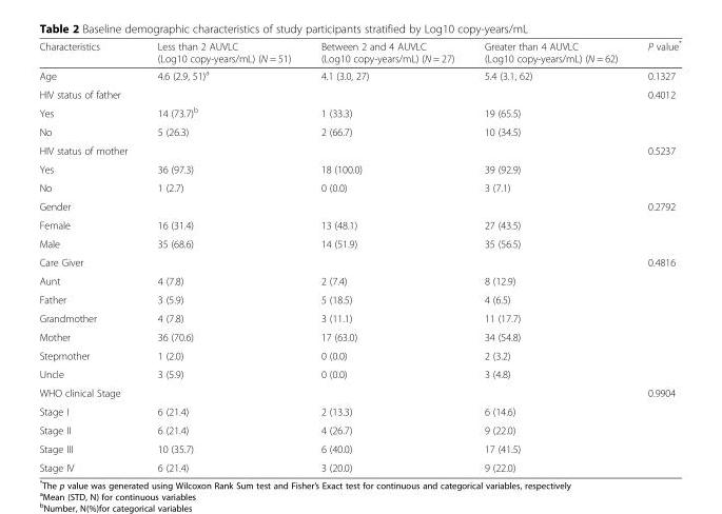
<table><thead><tr><td>Characteristics</td><td>Less than 2 AUVLC (Log10 copy-years/mL) (N = 51)</td><td>Between 2 and 4 AUVLC (Log10 copy-years/mL) (N = 27)</td><td>Greater than 4 AUVLC (Log10 copy-years/mL) (N = 62)</td><td>P value*</td></tr></thead><tbody><tr><td>Age</td><td>4.6 (2.9, 51)<sup>a</sup></td><td>4.1 (3.0, 27)</td><td>5.4 (3.1, 62)</td><td>0.1327</td></tr><tr><td>HIV status of father</td><td></td><td></td><td></td><td>0.4012</td></tr><tr><td>Yes</td><td>14 (73.7)<sup>b</sup></td><td>1 (33.3)</td><td>19 (65.5)</td><td></td></tr><tr><td>No</td><td>5 (26.3)</td><td>2 (66.7)</td><td>10 (34.5)</td><td></td></tr><tr><td>HIV status of mother</td><td></td><td></td><td></td><td>0.5237</td></tr><tr><td>Yes</td><td>36 (97.3)</td><td>18 (100.0)</td><td>39 (92.9)</td><td></td></tr><tr><td>No</td><td>1 (2.7)</td><td>0 (0.0)</td><td>3 (7.1)</td><td></td></tr><tr><td>Gender</td><td></td><td></td><td></td><td>0.2792</td></tr><tr><td>Female</td><td>16 (31.4)</td><td>13 (48.1)</td><td>27 (43.5)</td><td></td></tr><tr><td>Male</td><td>35 (68.6)</td><td>14 (51.9)</td><td>35 (56.5)</td><td></td></tr><tr><td>Care Giver</td><td></td><td></td><td></td><td>0.4816</td></tr><tr><td>Aunt</td><td>4 (7.8)</td><td>2 (7.4)</td><td>8 (12.9)</td><td></td></tr><tr><td>Father</td><td>3 (5.9)</td><td>5 (18.5)</td><td>4 (6.5)</td><td></td></tr><tr><td>Grandmother</td><td>4 (7.8)</td><td>3 (11.1)</td><td>11 (17.7)</td><td></td></tr><tr><td>Mother</td><td>36 (70.6)</td><td>17 (63.0)</td><td>34 (54.8)</td><td></td></tr><tr><td>Stepmother</td><td>1 (2.0)</td><td>0 (0.0)</td><td>2 (3.2)</td><td></td></tr><tr><td>Uncle</td><td>3 (5.9)</td><td>0 (0.0)</td><td>3 (4.8)</td><td></td></tr><tr><td>WHO clinical Stage</td><td></td><td></td><td></td><td>0.9904</td></tr><tr><td>Stage I</td><td>6 (21.4)</td><td>2 (13.3)</td><td>6 (14.6)</td><td></td></tr><tr><td>Stage II</td><td>6 (21.4)</td><td>4 (26.7)</td><td>9 (22.0)</td><td></td></tr><tr><td>Stage III</td><td>10 (35.7)</td><td>6 (40.0)</td><td>17 (41.5)</td><td></td></tr><tr><td>Stage IV</td><td>6 (21.4)</td><td>3 (20.0)</td><td>9 (22.0)</td><td></td></tr></tbody></table>